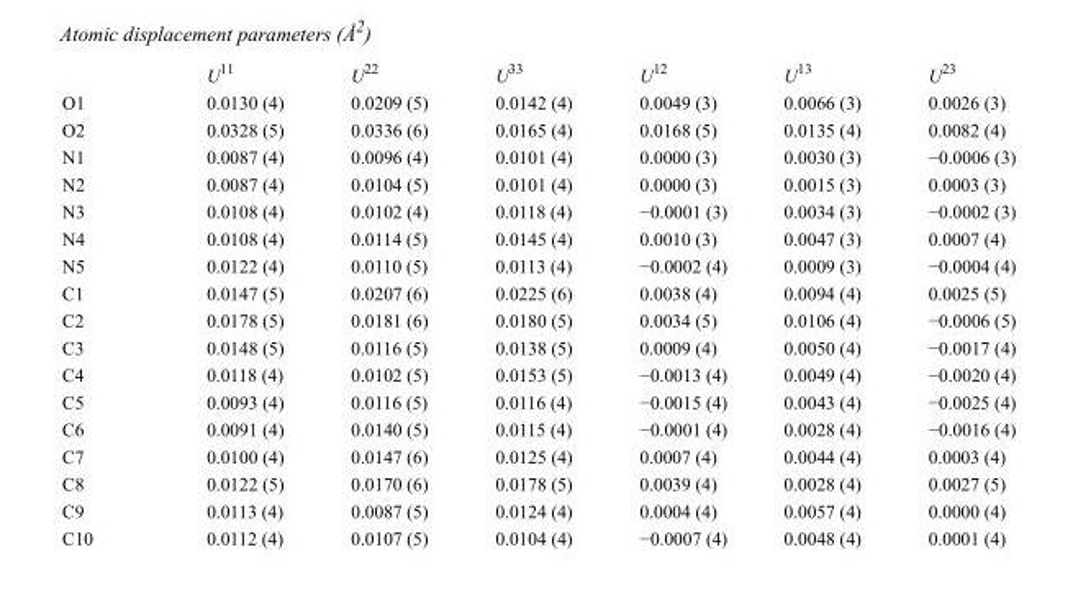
<table><thead><tr><td></td><td>U<sup>11</sup></td><td>U<sup>22</sup></td><td>U<sup>33</sup></td><td>U<sup>12</sup></td><td>U<sup>13</sup></td><td>U<sup>23</sup></td></tr></thead><tbody><tr><td>O1</td><td>0.0130 (4)</td><td>0.0209 (5)</td><td>0.0142 (4)</td><td>0.0049 (3)</td><td>0.0066 (3)</td><td>0.0026 (3)</td></tr><tr><td>O2</td><td>0.0328 (5)</td><td>0.0336 (6)</td><td>0.0165 (4)</td><td>0.0168 (5)</td><td>0.0135 (4)</td><td>0.0082 (4)</td></tr><tr><td>N1</td><td>0.0087 (4)</td><td>0.0096 (4)</td><td>0.0101 (4)</td><td>0.0000 (3)</td><td>0.0030 (3)</td><td>−0.0006 (3)</td></tr><tr><td>N2</td><td>0.0087 (4)</td><td>0.0104 (5)</td><td>0.0101 (4)</td><td>0.0000 (3)</td><td>0.0015 (3)</td><td>0.0003 (3)</td></tr><tr><td>N3</td><td>0.0108 (4)</td><td>0.0102 (4)</td><td>0.0118 (4)</td><td>−0.0001 (3)</td><td>0.0034 (3)</td><td>−0.0002 (3)</td></tr><tr><td>N4</td><td>0.0108 (4)</td><td>0.0114 (5)</td><td>0.0145 (4)</td><td>0.0010 (3)</td><td>0.0047 (3)</td><td>0.0007 (4)</td></tr><tr><td>N5</td><td>0.0122 (4)</td><td>0.0110 (5)</td><td>0.0113 (4)</td><td>−0.0002 (4)</td><td>0.0009 (3)</td><td>−0.0004 (4)</td></tr><tr><td>C1</td><td>0.0147 (5)</td><td>0.0207 (6)</td><td>0.0225 (6)</td><td>0.0038 (4)</td><td>0.0094 (4)</td><td>0.0025 (5)</td></tr><tr><td>C2</td><td>0.0178 (5)</td><td>0.0181 (6)</td><td>0.0180 (5)</td><td>0.0034 (5)</td><td>0.0106 (4)</td><td>−0.0006 (5)</td></tr><tr><td>C3</td><td>0.0148 (5)</td><td>0.0116 (5)</td><td>0.0138 (5)</td><td>0.0009 (4)</td><td>0.0050 (4)</td><td>−0.0017 (4)</td></tr><tr><td>C4</td><td>0.0118 (4)</td><td>0.0102 (5)</td><td>0.0153 (5)</td><td>−0.0013 (4)</td><td>0.0049 (4)</td><td>−0.0020 (4)</td></tr><tr><td>C5</td><td>0.0093 (4)</td><td>0.0116 (5)</td><td>0.0116 (4)</td><td>−0.0015 (4)</td><td>0.0043 (4)</td><td>−0.0025 (4)</td></tr><tr><td>C6</td><td>0.0091 (4)</td><td>0.0140 (5)</td><td>0.0115 (4)</td><td>−0.0001 (4)</td><td>0.0028 (4)</td><td>−0.0016 (4)</td></tr><tr><td>C7</td><td>0.0100 (4)</td><td>0.0147 (6)</td><td>0.0125 (4)</td><td>0.0007 (4)</td><td>0.0044 (4)</td><td>0.0003 (4)</td></tr><tr><td>C8</td><td>0.0122 (5)</td><td>0.0170 (6)</td><td>0.0178 (5)</td><td>0.0039 (4)</td><td>0.0028 (4)</td><td>0.0027 (5)</td></tr><tr><td>C9</td><td>0.0113 (4)</td><td>0.0087 (5)</td><td>0.0124 (4)</td><td>0.0004 (4)</td><td>0.0057 (4)</td><td>0.0000 (4)</td></tr><tr><td>C10</td><td>0.0112 (4)</td><td>0.0107 (5)</td><td>0.0104 (4)</td><td>−0.0007 (4)</td><td>0.0048 (4)</td><td>0.0001 (4)</td></tr></tbody></table>